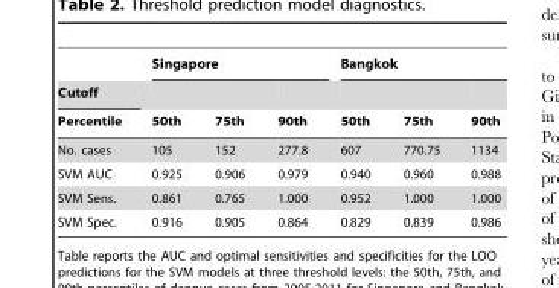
<table><thead><tr><td rowspan="3">Cutoff Percentile</td><td colspan="3">Singapore</td><td colspan="3">Bangkok</td></tr><tr><td rowspan="2">50th</td><td rowspan="2">75th</td><td rowspan="2">90th</td><td rowspan="2">50th</td><td rowspan="2">75th</td><td rowspan="2">90th</td></tr><tr></tr></thead><tbody><tr><td>No. cases</td><td>105</td><td>152</td><td>277.8</td><td>607</td><td>770.75</td><td>1134</td></tr><tr><td>SVM AUC</td><td>0.925</td><td>0.906</td><td>0.979</td><td>0.940</td><td>0.960</td><td>0.988</td></tr><tr><td>SVM Sens.</td><td>0.861</td><td>0.765</td><td>1.000</td><td>0.952</td><td>1.000</td><td>1.000</td></tr><tr><td>SVM Spec.</td><td>0.916</td><td>0.905</td><td>0.864</td><td>0.829</td><td>0.839</td><td>0.986</td></tr></tbody></table>